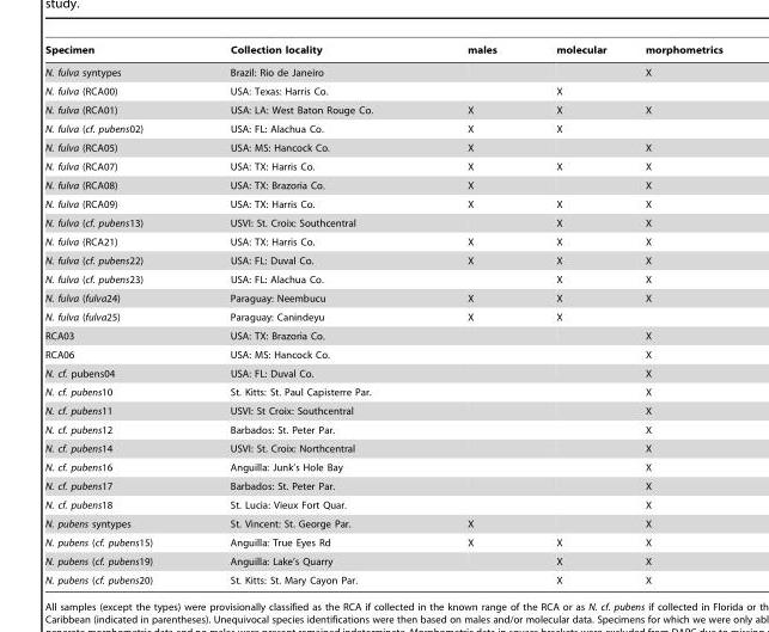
<table><thead><tr><td>Specimen</td><td>Collection locality</td><td>males</td><td>molecular</td><td>morphometrics</td></tr></thead><tbody><tr><td>N. fulva syntypes</td><td>Brazil: Rio de Janeiro</td><td></td><td></td><td>X</td></tr><tr><td>N. fulva (RCA00)</td><td>USA: Texas: Harris Co.</td><td></td><td>X</td><td></td></tr><tr><td>N. fulva (RCA01)</td><td>USA: LA: West Baton Rouge Co.</td><td>X</td><td>X</td><td>X</td></tr><tr><td>N. fulva (cf. pubens02)</td><td>USA: FL: Alachua Co.</td><td>X</td><td>X</td><td></td></tr><tr><td>N. fulva (RCA05)</td><td>USA: MS: Hancock Co.</td><td>X</td><td></td><td>X</td></tr><tr><td>N. fulva (RCA07)</td><td>USA: TX: Harris Co.</td><td>X</td><td>X</td><td>X</td></tr><tr><td>N. fulva (RCA08)</td><td>USA: TX: Brazoria Co.</td><td>X</td><td></td><td>X</td></tr><tr><td>N. fulva (RCA09)</td><td>USA: TX: Harris Co.</td><td>X</td><td>X</td><td>X</td></tr><tr><td>N. fulva (cf. pubens13)</td><td>USVI: St. Croix: Southcentral</td><td></td><td>X</td><td>X</td></tr><tr><td>N. fulva (RCA21)</td><td>USA: TX: Harris Co.</td><td>X</td><td>X</td><td>X</td></tr><tr><td>N. fulva (cf. pubens22)</td><td>USA: FL: Duval Co.</td><td>X</td><td>X</td><td>X</td></tr><tr><td>N. fulva (cf. pubens23)</td><td>USA: FL: Alachua Co.</td><td></td><td>X</td><td>X</td></tr><tr><td>N. fulva (fulva24)</td><td>Paraguay: Neembucu</td><td>X</td><td>X</td><td>X</td></tr><tr><td>N. fulva (fulva25)</td><td>Paraguay: Canindeyu</td><td>X</td><td>X</td><td></td></tr><tr><td>RCA03</td><td>USA: TX: Brazoria Co.</td><td></td><td></td><td>X</td></tr><tr><td>RCA06</td><td>USA: MS: Hancock Co.</td><td></td><td></td><td>X</td></tr><tr><td>N. cf. pubens04</td><td>USA: FL: Duval Co.</td><td></td><td></td><td>X</td></tr><tr><td>N. cf. pubens10</td><td>St. Kitts: St. Paul Capisterre Par.</td><td></td><td></td><td>X</td></tr><tr><td>N. cf. pubens11</td><td>USVI: St Croix: Southcentral</td><td></td><td></td><td>X</td></tr><tr><td>N. cf. pubens12</td><td>Barbados: St. Peter Par.</td><td></td><td></td><td>X</td></tr><tr><td>N. cf. pubens14</td><td>USVI: St. Croix: Northcentral</td><td></td><td></td><td>X</td></tr><tr><td>N. cf. pubens16</td><td>Anguilla: Junk’s Hole Bay</td><td></td><td></td><td>X</td></tr><tr><td>N. cf. pubens17</td><td>Barbados: St. Peter Par.</td><td></td><td></td><td>X</td></tr><tr><td>N. cf. pubens18</td><td>St. Lucia: Vieux Fort Quar.</td><td></td><td></td><td>X</td></tr><tr><td>N. pubens syntypes</td><td>St. Vincent: St. George Par.</td><td>X</td><td></td><td>X</td></tr><tr><td>N. pubens (cf. pubens15)</td><td>Anguilla: True Eyes Rd</td><td>X</td><td>X</td><td>X</td></tr><tr><td>N. pubens (cf. pubens19)</td><td>Anguilla: Lake’s Quarry</td><td></td><td>X</td><td>X</td></tr><tr><td>N. pubens (cf. pubens20)</td><td>St. Kitts: St. Mary Cayon Par.</td><td></td><td>X</td><td>X</td></tr></tbody></table>